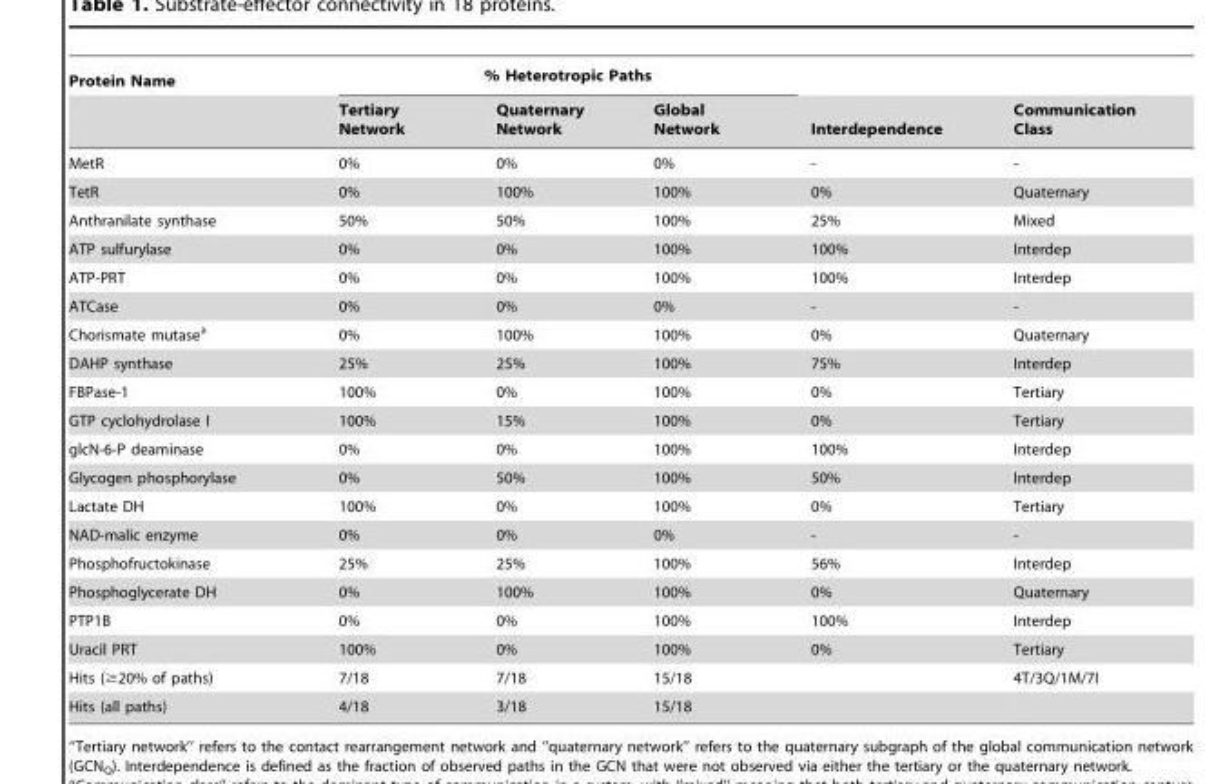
<table><thead><tr><td rowspan="2">Protein Name</td><td colspan="3">% Heterotropic Paths</td><td rowspan="2">Interdependence</td><td rowspan="2">Communication Class</td></tr><tr><td>Tertiary Network</td><td>Quaternary Network</td><td>Global Network</td></tr></thead><tbody><tr><td>MetR</td><td>0%</td><td>0%</td><td>0%</td><td>-</td><td>-</td></tr><tr><td>TetR</td><td>0%</td><td>100%</td><td>100%</td><td>0%</td><td>Quaternary</td></tr><tr><td>Anthranilate synthase</td><td>50%</td><td>50%</td><td>100%</td><td>25%</td><td>Mixed</td></tr><tr><td>ATP sulfurylase</td><td>0%</td><td>0%</td><td>100%</td><td>100%</td><td>Interdep</td></tr><tr><td>ATP-PRT</td><td>0%</td><td>0%</td><td>100%</td><td>100%</td><td>Interdep</td></tr><tr><td>ATCase</td><td>0%</td><td>0%</td><td>0%</td><td>-</td><td>-</td></tr><tr><td>Chorismate mutase<sup>a</sup></td><td>0%</td><td>100%</td><td>100%</td><td>0%</td><td>Quaternary</td></tr><tr><td>DAHP synthase</td><td>25%</td><td>25%</td><td>100%</td><td>75%</td><td>Interdep</td></tr><tr><td>FBPase-1</td><td>100%</td><td>0%</td><td>100%</td><td>0%</td><td>Tertiary</td></tr><tr><td>GTP cyclohydrolase I</td><td>100%</td><td>15%</td><td>100%</td><td>0%</td><td>Tertiary</td></tr><tr><td>glcN-6-P deaminase</td><td>0%</td><td>0%</td><td>100%</td><td>100%</td><td>Interdep</td></tr><tr><td>Glycogen phosphorylase</td><td>0%</td><td>50%</td><td>100%</td><td>50%</td><td>Interdep</td></tr><tr><td>Lactate DH</td><td>100%</td><td>0%</td><td>100%</td><td>0%</td><td>Tertiary</td></tr><tr><td>NAD-malic enzyme</td><td>0%</td><td>0%</td><td>0%</td><td>-</td><td>-</td></tr><tr><td>Phosphofructokinase</td><td>25%</td><td>25%</td><td>100%</td><td>56%</td><td>Interdep</td></tr><tr><td>Phosphoglycerate DH</td><td>0%</td><td>100%</td><td>100%</td><td>0%</td><td>Quaternary</td></tr><tr><td>PTP1B</td><td>0%</td><td>0%</td><td>100%</td><td>100%</td><td>Interdep</td></tr><tr><td>Uracil PRT</td><td>100%</td><td>0%</td><td>100%</td><td>0%</td><td>Tertiary</td></tr><tr><td>Hits (≥20% of paths)</td><td>7/18</td><td>7/18</td><td>15/18</td><td></td><td>4T/3Q/1M/7I</td></tr><tr><td>Hits (all paths)</td><td>4/18</td><td>3/18</td><td>15/18</td><td></td><td></td></tr></tbody></table>